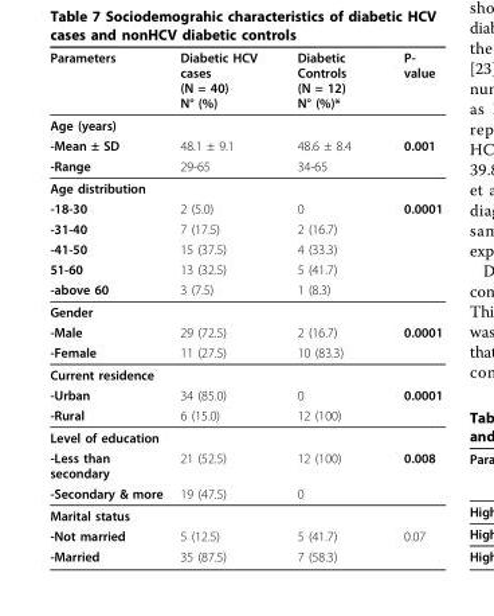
<table><thead><tr><td>Parameters</td><td>Diabetic HCV cases (N = 40) N° (%)</td><td>Diabetic Controls (N = 12) N° (%)*</td><td>P- value</td></tr></thead><tbody><tr><td colspan="4">Age (years)</td></tr><tr><td>-Mean ± SD</td><td>48.1 ± 9.1</td><td>48.6 ± 8.4</td><td>0.001</td></tr><tr><td>-Range</td><td>29-65</td><td>34-65</td><td></td></tr><tr><td colspan="4">Age distribution</td></tr><tr><td>-18-30</td><td>2 (5.0)</td><td>0</td><td>0.0001</td></tr><tr><td>-31-40</td><td>7 (17.5)</td><td>2 (16.7)</td><td></td></tr><tr><td>-41-50</td><td>15 (37.5)</td><td>4 (33.3)</td><td></td></tr><tr><td>51-60</td><td>13 (32.5)</td><td>5 (41.7)</td><td></td></tr><tr><td>-above 60</td><td>3 (7.5)</td><td>1 (8.3)</td><td></td></tr><tr><td colspan="4">Gender</td></tr><tr><td>-Male</td><td>29 (72.5)</td><td>2 (16.7)</td><td>0.0001</td></tr><tr><td>-Female</td><td>11 (27.5)</td><td>10 (83.3)</td><td></td></tr><tr><td colspan="4">Current residence</td></tr><tr><td>-Urban</td><td>34 (85.0)</td><td>0</td><td>0.0001</td></tr><tr><td>-Rural</td><td>6 (15.0)</td><td>12 (100)</td><td></td></tr><tr><td colspan="4">Level of education</td></tr><tr><td>-Less than secondary</td><td>21 (52.5)</td><td>12 (100)</td><td>0.008</td></tr><tr><td>-Secondary &amp; more</td><td>19 (47.5)</td><td>0</td><td></td></tr><tr><td colspan="4">Marital status</td></tr><tr><td>-Not married</td><td>5 (12.5)</td><td>5 (41.7)</td><td>0.07</td></tr><tr><td>-Married</td><td>35 (87.5)</td><td>7 (58.3)</td><td></td></tr></tbody></table>